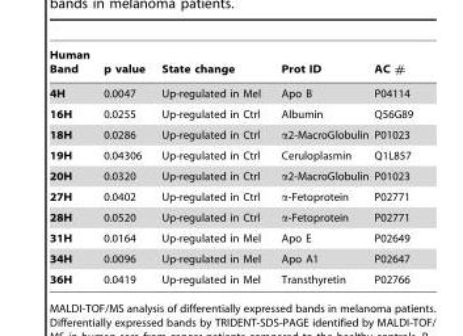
<table><thead><tr><td>Human Band</td><td>p value</td><td>State change</td><td>Prot ID</td><td>AC #</td></tr></thead><tbody><tr><td>4H</td><td>0.0047</td><td>Up-regulated in Mel</td><td>Apo B</td><td>P04114</td></tr><tr><td>16H</td><td>0.0255</td><td>Up-regulated in Ctrl</td><td>Albumin</td><td>Q56G89</td></tr><tr><td>18H</td><td>0.0286</td><td>Up-regulated in Ctrl</td><td>α2-MacroGlobulin</td><td>P01023</td></tr><tr><td>19H</td><td>0.04306</td><td>Up-regulated in Ctrl</td><td>Ceruloplasmin</td><td>Q1L857</td></tr><tr><td>20H</td><td>0.0320</td><td>Up-regulated in Ctrl</td><td>α2-MacroGlobulin</td><td>P01023</td></tr><tr><td>27H</td><td>0.0402</td><td>Up-regulated in Ctrl</td><td>α-Fetoprotein</td><td>P02771</td></tr><tr><td>28H</td><td>0.0520</td><td>Up-regulated in Ctrl</td><td>α-Fetoprotein</td><td>P02771</td></tr><tr><td>31H</td><td>0.0164</td><td>Up-regulated in Mel</td><td>Apo E</td><td>P02649</td></tr><tr><td>34H</td><td>0.0096</td><td>Up-regulated in Mel</td><td>Apo A1</td><td>P02647</td></tr><tr><td>36H</td><td>0.0419</td><td>Up-regulated in Mel</td><td>Transthyretin</td><td>P02766</td></tr></tbody></table>